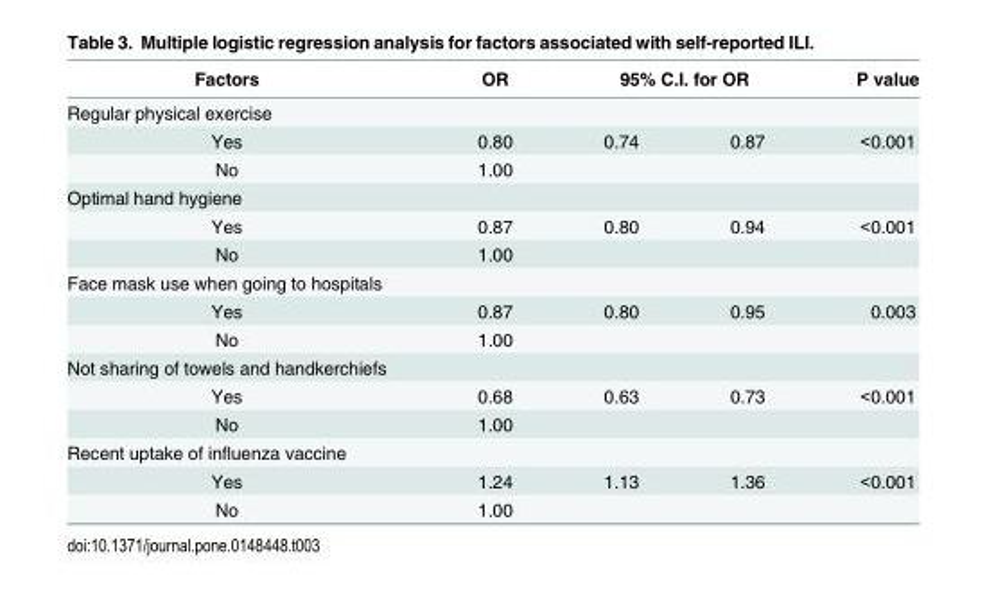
<table><thead><tr><td rowspan="2">Factors Regular physical exercise</td><td rowspan="2">OR</td><td colspan="2">95% C.I. for OR</td><td rowspan="2">P value</td></tr><tr><td></td><td></td></tr></thead><tbody><tr><td>Yes</td><td>0.80</td><td>0.74</td><td>0.87</td><td>&lt;0.001</td></tr><tr><td>No</td><td>1.00</td><td></td><td></td><td></td></tr><tr><td colspan="5">Optimal hand hygiene</td></tr><tr><td>Yes</td><td>0.87</td><td>0.80</td><td>0.94</td><td>&lt;0.001</td></tr><tr><td>No</td><td>1.00</td><td></td><td></td><td></td></tr><tr><td colspan="5">Face mask use when going to hospitals</td></tr><tr><td>Yes</td><td>0.87</td><td>0.80</td><td>0.95</td><td>0.003</td></tr><tr><td>No</td><td>1.00</td><td></td><td></td><td></td></tr><tr><td colspan="5">Not sharing of towels and handkerchiefs</td></tr><tr><td>Yes</td><td>0.68</td><td>0.63</td><td>0.73</td><td>&lt;0.001</td></tr><tr><td>No</td><td>1.00</td><td></td><td></td><td></td></tr><tr><td colspan="5">Recent uptake of influenza vaccine</td></tr><tr><td>Yes</td><td>1.24</td><td>1.13</td><td>1.36</td><td>&lt;0.001</td></tr><tr><td>No</td><td>1.00</td><td></td><td></td><td></td></tr></tbody></table>